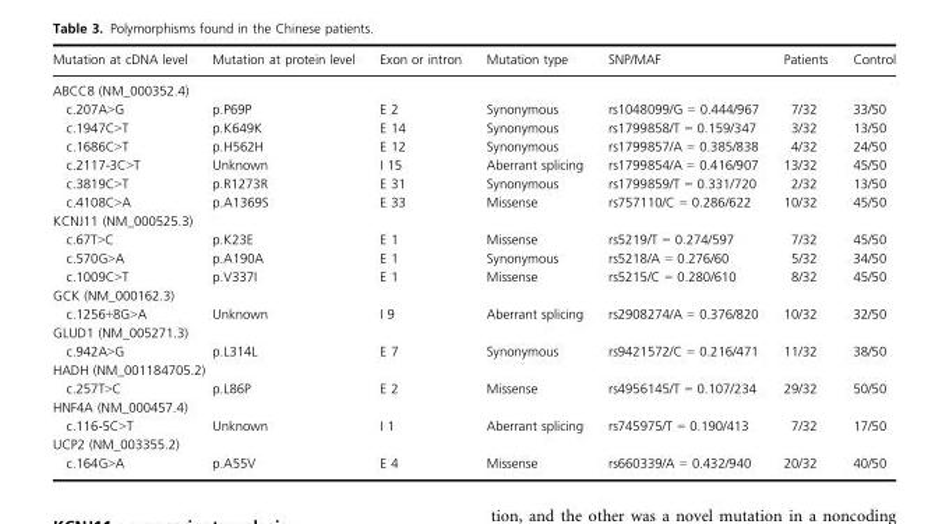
<table><thead><tr><td>Mutation at cDNA level</td><td>Mutation at protein level</td><td>Exon or intron</td><td>Mutation type</td><td>SNP/MAF</td><td>Patients</td><td>Control</td></tr></thead><tbody><tr><td colspan="7">ABCC8 (NM_000352.4)</td></tr><tr><td>c.207A&gt;G</td><td>p.P69P</td><td>E 2</td><td>Synonymous</td><td>rs1048099/G = 0.444/967</td><td>7/32</td><td>33/50</td></tr><tr><td>c.1947C&gt;T</td><td>p.K649K</td><td>E 14</td><td>Synonymous</td><td>rs1799858/T = 0.159/347</td><td>3/32</td><td>13/50</td></tr><tr><td>c.1686C&gt;T</td><td>p.H562H</td><td>E 12</td><td>Synonymous</td><td>rs1799857/A = 0.385/838</td><td>4/32</td><td>24/50</td></tr><tr><td>c.2117-3C&gt;T</td><td>Unknown</td><td>I 15</td><td>Aberrant splicing</td><td>rs1799854/A = 0.416/907</td><td>13/32</td><td>45/50</td></tr><tr><td>c.3819C&gt;T</td><td>p.R1273R</td><td>E 31</td><td>Synonymous</td><td>rs1799859/T = 0.331/720</td><td>2/32</td><td>13/50</td></tr><tr><td>c.4108C&gt;A</td><td>p.A1369S</td><td>E 33</td><td>Missense</td><td>rs757110/C = 0.286/622</td><td>10/32</td><td>45/50</td></tr><tr><td colspan="7">KCNJ11 (NM_000525.3)</td></tr><tr><td>c.67T&gt;C</td><td>p.K23E</td><td>E 1</td><td>Missense</td><td>rs5219/T = 0.274/597</td><td>7/32</td><td>45/50</td></tr><tr><td>c.570G&gt;A</td><td>p.A190A</td><td>E 1</td><td>Synonymous</td><td>rs5218/A = 0.276/60</td><td>5/32</td><td>34/50</td></tr><tr><td>c.1009C&gt;T</td><td>p.V337I</td><td>E 1</td><td>Missense</td><td>rs5215/C = 0.280/610</td><td>8/32</td><td>45/50</td></tr><tr><td colspan="7">GCK (NM_000162.3)</td></tr><tr><td>c.1256+8G&gt;A</td><td>Unknown</td><td>I 9</td><td>Aberrant splicing</td><td>rs2908274/A = 0.376/820</td><td>10/32</td><td>32/50</td></tr><tr><td colspan="7">GLUD1 (NM_005271.3)</td></tr><tr><td>c.942A&gt;G</td><td>p.L314L</td><td>E 7</td><td>Synonymous</td><td>rs9421572/C = 0.216/471</td><td>11/32</td><td>38/50</td></tr><tr><td colspan="7">HADH (NM_001184705.2)</td></tr><tr><td>c.257T&gt;C</td><td>p.L86P</td><td>E 2</td><td>Missense</td><td>rs4956145/T = 0.107/234</td><td>29/32</td><td>50/50</td></tr><tr><td colspan="7">HNF4A (NM_000457.4)</td></tr><tr><td>c.116-5C&gt;T</td><td>Unknown</td><td>I 1</td><td>Aberrant splicing</td><td>rs745975/T = 0.190/413</td><td>7/32</td><td>17/50</td></tr><tr><td colspan="7">UCP2 (NM_003355.2)</td></tr><tr><td>c.164G&gt;A</td><td>p.A55V</td><td>E 4</td><td>Missense</td><td>rs660339/A = 0.432/940</td><td>20/32</td><td>40/50</td></tr></tbody></table>